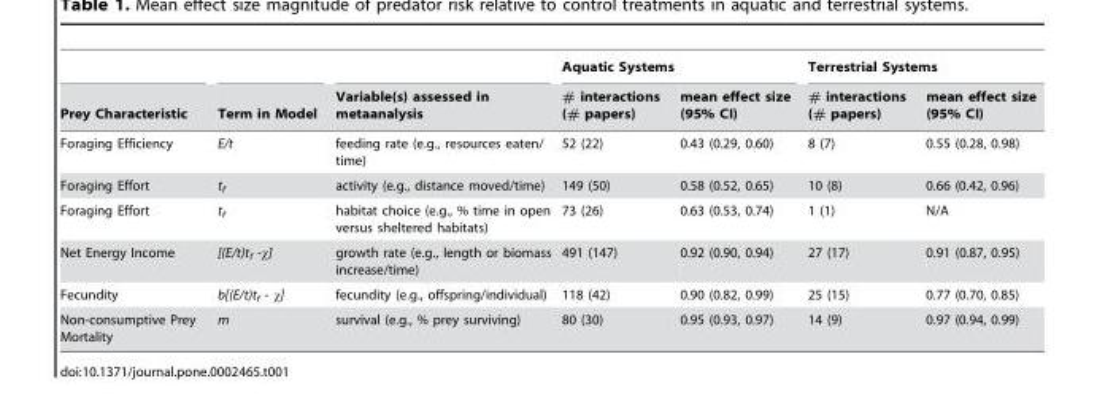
<table><thead><tr><td rowspan="2">Prey Characteristic</td><td rowspan="2">Term in Model</td><td rowspan="2">Variable(s) assessed in metaanalysis</td><td colspan="2">Aquatic Systems</td><td colspan="2">Terrestrial Systems</td></tr><tr><td># interactions (# papers)</td><td>mean effect size (95% CI)</td><td># interactions (# papers)</td><td>mean effect size (95% CI)</td></tr></thead><tbody><tr><td>Foraging Efficiency</td><td>E/t</td><td>feeding rate (e.g., resources eaten/ time)</td><td>52 (22)</td><td>0.43 (0.29, 0.60)</td><td>8 (7)</td><td>0.55 (0.28, 0.98)</td></tr><tr><td>Foraging Effort</td><td>t<sub>f</sub></td><td>activity (e.g., distance moved/time)</td><td>149 (50)</td><td>0.58 (0.52, 0.65)</td><td>10 (8)</td><td>0.66 (0.42, 0.96)</td></tr><tr><td>Foraging Effort</td><td>t<sub>f</sub></td><td>habitat choice (e.g., % time in open versus sheltered habitats)</td><td>73 (26)</td><td>0.63 (0.53, 0.74)</td><td>1 (1)</td><td>N/A</td></tr><tr><td>Net Energy Income</td><td>[(E/t)t<sub>f</sub> -χ]</td><td>growth rate (e.g., length or biomass increase/time)</td><td>491 (147)</td><td>0.92 (0.90, 0.94)</td><td>27 (17)</td><td>0.91 (0.87, 0.95)</td></tr><tr><td>Fecundity</td><td>b[(E/t)t<sub>f</sub> - χ]</td><td>fecundity (e.g., offspring/individual)</td><td>118 (42)</td><td>0.90 (0.82, 0.99)</td><td>25 (15)</td><td>0.77 (0.70, 0.85)</td></tr><tr><td>Non-consumptive Prey Mortality</td><td>m</td><td>survival (e.g., % prey surviving)</td><td>80 (30)</td><td>0.95 (0.93, 0.97)</td><td>14 (9)</td><td>0.97 (0.94, 0.99)</td></tr></tbody></table>